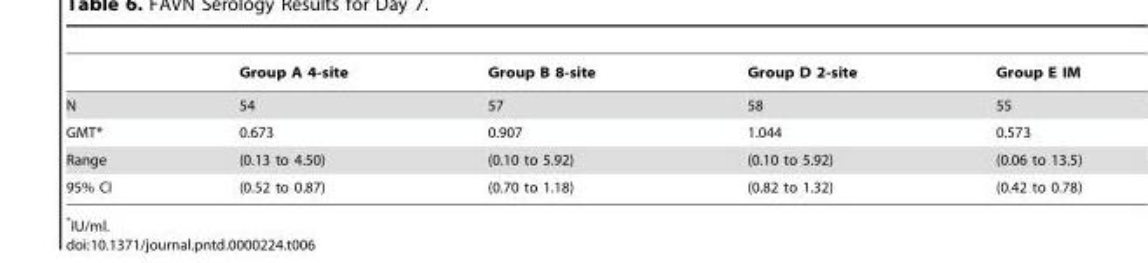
<table><thead><tr><td></td><td>Group A 4-site</td><td>Group B 8-site</td><td>Group D 2-site</td><td>Group E IM</td></tr></thead><tbody><tr><td>N</td><td>54</td><td>57</td><td>58</td><td>55</td></tr><tr><td>GMT*</td><td>0.673</td><td>0.907</td><td>1.044</td><td>0.573</td></tr><tr><td>Range</td><td>(0.13 to 4.50)</td><td>(0.10 to 5.92)</td><td>(0.10 to 5.92)</td><td>(0.06 to 13.5)</td></tr><tr><td>95% CI</td><td>(0.52 to 0.87)</td><td>(0.70 to 1.18)</td><td>(0.82 to 1.32)</td><td>(0.42 to 0.78)</td></tr></tbody></table>